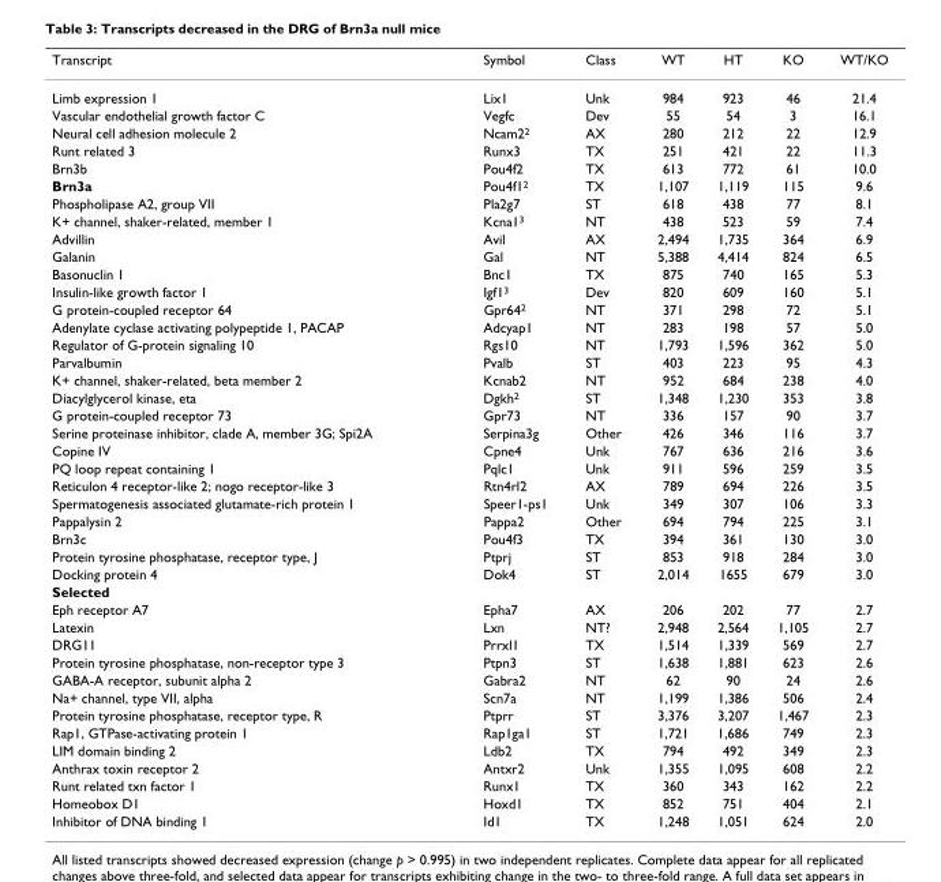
<table><thead><tr><td>Transcript</td><td>Symbol</td><td>Class</td><td>WT</td><td>HT</td><td>KO</td><td>WT/KO</td></tr></thead><tbody><tr><td>Limb expression 1</td><td>Lix1</td><td>Unk</td><td>984</td><td>923</td><td>46</td><td>21.4</td></tr><tr><td>Vascular endothelial growth factor C</td><td>Vegfc</td><td>Dev</td><td>55</td><td>54</td><td>3</td><td>16.1</td></tr><tr><td>Neural cell adhesion molecule 2</td><td>Ncam2<sup>2</sup></td><td>AX</td><td>280</td><td>212</td><td>22</td><td>12.9</td></tr><tr><td>Runt related 3</td><td>Runx3</td><td>TX</td><td>251</td><td>421</td><td>22</td><td>11.3</td></tr><tr><td>Brn3b</td><td>Pou4f2</td><td>TX</td><td>613</td><td>772</td><td>61</td><td>10.0</td></tr><tr><td>Brn3a</td><td>Pou4f1<sup>2</sup></td><td>TX</td><td>1,107</td><td>1,119</td><td>115</td><td>9.6</td></tr><tr><td>Phospholipase A2, group VII</td><td>Pla2g7</td><td>ST</td><td>618</td><td>438</td><td>77</td><td>8.1</td></tr><tr><td>K+ channel, shaker-related, member 1</td><td>Kcna1<sup>3</sup></td><td>NT</td><td>438</td><td>523</td><td>59</td><td>7.4</td></tr><tr><td>Advillin</td><td>Avil</td><td>AX</td><td>2,494</td><td>1,735</td><td>364</td><td>6.9</td></tr><tr><td>Galanin</td><td>Gal</td><td>NT</td><td>5,388</td><td>4,414</td><td>824</td><td>6.5</td></tr><tr><td>Basonuclin 1</td><td>Bnc1</td><td>TX</td><td>875</td><td>740</td><td>165</td><td>5.3</td></tr><tr><td>Insulin-like growth factor 1</td><td>Igf1<sup>3</sup></td><td>Dev</td><td>820</td><td>609</td><td>160</td><td>5.1</td></tr><tr><td>G protein-coupled receptor 64</td><td>Gpr64<sup>2</sup></td><td>NT</td><td>371</td><td>298</td><td>72</td><td>5.1</td></tr><tr><td>Adenylate cyclase activating polypeptide 1, PACAP</td><td>Adcyap1</td><td>NT</td><td>283</td><td>198</td><td>57</td><td>5.0</td></tr><tr><td>Regulator of G-protein signaling 10</td><td>Rgs10</td><td>NT</td><td>1,793</td><td>1,596</td><td>362</td><td>5.0</td></tr><tr><td>Parvalbumin</td><td>Pvalb</td><td>ST</td><td>403</td><td>223</td><td>95</td><td>4.3</td></tr><tr><td>K+ channel, shaker-related, beta member 2</td><td>Kcnab2</td><td>NT</td><td>952</td><td>684</td><td>238</td><td>4.0</td></tr><tr><td>Diacylglycerol kinase, eta</td><td>Dgkh<sup>2</sup></td><td>ST</td><td>1,348</td><td>1,230</td><td>353</td><td>3.8</td></tr><tr><td>G protein-coupled receptor 73</td><td>Gpr73</td><td>NT</td><td>336</td><td>157</td><td>90</td><td>3.7</td></tr><tr><td>Serine proteinase inhibitor, clade A, member 3G; Spi2A</td><td>Serpina3g</td><td>Other</td><td>426</td><td>346</td><td>116</td><td>3.7</td></tr><tr><td>Copine IV</td><td>Cpne4</td><td>Unk</td><td>767</td><td>636</td><td>216</td><td>3.6</td></tr><tr><td>PQ loop repeat containing 1</td><td>Pqlc1</td><td>Unk</td><td>911</td><td>596</td><td>259</td><td>3.5</td></tr><tr><td>Reticulon 4 receptor-like 2; nogo receptor-like 3</td><td>Rtn4rl2</td><td>AX</td><td>789</td><td>694</td><td>226</td><td>3.5</td></tr><tr><td>Spermatogenesis associated glutamate-rich protein 1</td><td>Speer1-ps1</td><td>Unk</td><td>349</td><td>307</td><td>106</td><td>3.3</td></tr><tr><td>Pappalysin 2</td><td>Pappa2</td><td>Other</td><td>694</td><td>794</td><td>225</td><td>3.1</td></tr><tr><td>Brn3c</td><td>Pou4f3</td><td>TX</td><td>394</td><td>361</td><td>130</td><td>3.0</td></tr><tr><td>Protein tyrosine phosphatase, receptor type, J</td><td>Ptprj</td><td>ST</td><td>853</td><td>918</td><td>284</td><td>3.0</td></tr><tr><td>Docking protein 4</td><td>Dok4</td><td>ST</td><td>2,014</td><td>1655</td><td>679</td><td>3.0</td></tr><tr><td colspan="7">Selected</td></tr><tr><td>Eph receptor A7</td><td>Epha7</td><td>AX</td><td>206</td><td>202</td><td>77</td><td>2.7</td></tr><tr><td>Latexin</td><td>Lxn</td><td>NT?</td><td>2,948</td><td>2,564</td><td>1,105</td><td>2.7</td></tr><tr><td>DRG11</td><td>Prrxl1</td><td>TX</td><td>1,514</td><td>1,339</td><td>569</td><td>2.7</td></tr><tr><td>Protein tyrosine phosphatase, non-receptor type 3</td><td>Ptpn3</td><td>ST</td><td>1,638</td><td>1,881</td><td>623</td><td>2.6</td></tr><tr><td>GABA-A receptor, subunit alpha 2</td><td>Gabra2</td><td>NT</td><td>62</td><td>90</td><td>24</td><td>2.6</td></tr><tr><td>Na+ channel, type VII, alpha</td><td>Scn7a</td><td>NT</td><td>1,199</td><td>1,386</td><td>506</td><td>2.4</td></tr><tr><td>Protein tyrosine phosphatase, receptor type, R</td><td>Ptprr</td><td>ST</td><td>3,376</td><td>3,207</td><td>1,467</td><td>2.3</td></tr><tr><td>Rap1, GTPase-activating protein 1</td><td>Rap1ga1</td><td>ST</td><td>1,721</td><td>1,686</td><td>749</td><td>2.3</td></tr><tr><td>LIM domain binding 2</td><td>Ldb2</td><td>TX</td><td>794</td><td>492</td><td>349</td><td>2.3</td></tr><tr><td>Anthrax toxin receptor 2</td><td>Antxr2</td><td>Unk</td><td>1,355</td><td>1,095</td><td>608</td><td>2.2</td></tr><tr><td>Runt related txn factor 1</td><td>Runx1</td><td>TX</td><td>360</td><td>343</td><td>162</td><td>2.2</td></tr><tr><td>Homeobox D1</td><td>Hoxd1</td><td>TX</td><td>852</td><td>751</td><td>404</td><td>2.1</td></tr><tr><td>Inhibitor of DNA binding 1</td><td>Id1</td><td>TX</td><td>1,248</td><td>1,051</td><td>624</td><td>2.0</td></tr></tbody></table>